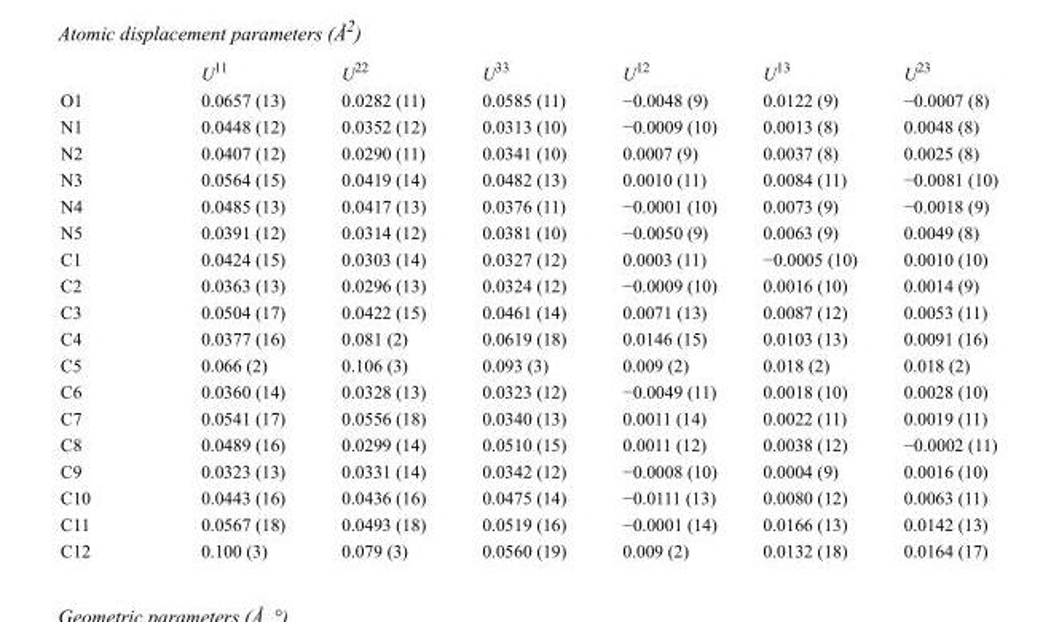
<table><thead><tr><td></td><td>U<sup>11</sup></td><td>U<sup>22</sup></td><td>U<sup>33</sup></td><td>U<sup>12</sup></td><td>U<sup>13</sup></td><td>U<sup>23</sup></td></tr></thead><tbody><tr><td>O1</td><td>0.0657 (13)</td><td>0.0282 (11)</td><td>0.0585 (11)</td><td>−0.0048 (9)</td><td>0.0122 (9)</td><td>−0.0007 (8)</td></tr><tr><td>N1</td><td>0.0448 (12)</td><td>0.0352 (12)</td><td>0.0313 (10)</td><td>−0.0009 (10)</td><td>0.0013 (8)</td><td>0.0048 (8)</td></tr><tr><td>N2</td><td>0.0407 (12)</td><td>0.0290 (11)</td><td>0.0341 (10)</td><td>0.0007 (9)</td><td>0.0037 (8)</td><td>0.0025 (8)</td></tr><tr><td>N3</td><td>0.0564 (15)</td><td>0.0419 (14)</td><td>0.0482 (13)</td><td>0.0010 (11)</td><td>0.0084 (11)</td><td>−0.0081 (10)</td></tr><tr><td>N4</td><td>0.0485 (13)</td><td>0.0417 (13)</td><td>0.0376 (11)</td><td>−0.0001 (10)</td><td>0.0073 (9)</td><td>−0.0018 (9)</td></tr><tr><td>N5</td><td>0.0391 (12)</td><td>0.0314 (12)</td><td>0.0381 (10)</td><td>−0.0050 (9)</td><td>0.0063 (9)</td><td>0.0049 (8)</td></tr><tr><td>C1</td><td>0.0424 (15)</td><td>0.0303 (14)</td><td>0.0327 (12)</td><td>0.0003 (11)</td><td>−0.0005 (10)</td><td>0.0010 (10)</td></tr><tr><td>C2</td><td>0.0363 (13)</td><td>0.0296 (13)</td><td>0.0324 (12)</td><td>−0.0009 (10)</td><td>0.0016 (10)</td><td>0.0014 (9)</td></tr><tr><td>C3</td><td>0.0504 (17)</td><td>0.0422 (15)</td><td>0.0461 (14)</td><td>0.0071 (13)</td><td>0.0087 (12)</td><td>0.0053 (11)</td></tr><tr><td>C4</td><td>0.0377 (16)</td><td>0.081 (2)</td><td>0.0619 (18)</td><td>0.0146 (15)</td><td>0.0103 (13)</td><td>0.0091 (16)</td></tr><tr><td>C5</td><td>0.066 (2)</td><td>0.106 (3)</td><td>0.093 (3)</td><td>0.009 (2)</td><td>0.018 (2)</td><td>0.018 (2)</td></tr><tr><td>C6</td><td>0.0360 (14)</td><td>0.0328 (13)</td><td>0.0323 (12)</td><td>−0.0049 (11)</td><td>0.0018 (10)</td><td>0.0028 (10)</td></tr><tr><td>C7</td><td>0.0541 (17)</td><td>0.0556 (18)</td><td>0.0340 (13)</td><td>0.0011 (14)</td><td>0.0022 (11)</td><td>0.0019 (11)</td></tr><tr><td>C8</td><td>0.0489 (16)</td><td>0.0299 (14)</td><td>0.0510 (15)</td><td>0.0011 (12)</td><td>0.0038 (12)</td><td>−0.0002 (11)</td></tr><tr><td>C9</td><td>0.0323 (13)</td><td>0.0331 (14)</td><td>0.0342 (12)</td><td>−0.0008 (10)</td><td>0.0004 (9)</td><td>0.0016 (10)</td></tr><tr><td>C10</td><td>0.0443 (16)</td><td>0.0436 (16)</td><td>0.0475 (14)</td><td>−0.0111 (13)</td><td>0.0080 (12)</td><td>0.0063 (11)</td></tr><tr><td>C11</td><td>0.0567 (18)</td><td>0.0493 (18)</td><td>0.0519 (16)</td><td>−0.0001 (14)</td><td>0.0166 (13)</td><td>0.0142 (13)</td></tr><tr><td>C12</td><td>0.100 (3)</td><td>0.079 (3)</td><td>0.0560 (19)</td><td>0.009 (2)</td><td>0.0132 (18)</td><td>0.0164 (17)</td></tr></tbody></table>